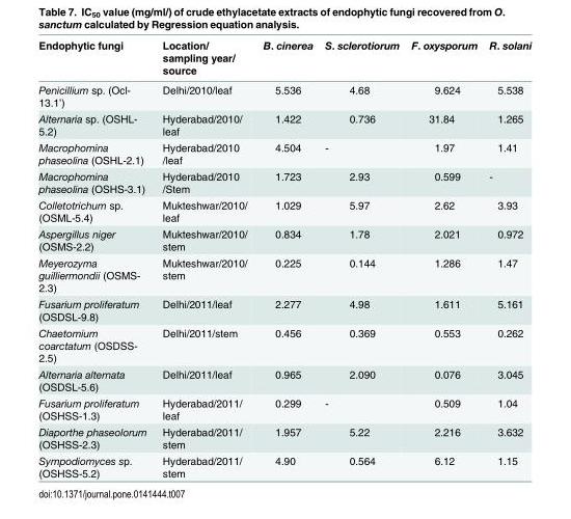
<table><thead><tr><td>Endophytic fungi</td><td>Location/ sampling year/ source</td><td>B. cinerea</td><td>S. sclerotiorum</td><td>F. oxysporum</td><td>R. solani</td></tr></thead><tbody><tr><td>Penicillium sp. (Ocl- 13.1’)</td><td>Delhi/2010/leaf</td><td>5.536</td><td>4.68</td><td>9.624</td><td>5.538</td></tr><tr><td>Alternaria sp. (OSHL- 5.2)</td><td>Hyderabad/2010/ leaf</td><td>1.422</td><td>0.736</td><td>31.84</td><td>1.265</td></tr><tr><td>Macrophomina phaseolina (OSHL-2.1)</td><td>Hyderabad/2010 /leaf</td><td>4.504</td><td>-</td><td>1.97</td><td>1.41</td></tr><tr><td>Macrophomina phaseolina (OSHS-3.1)</td><td>Hyderabad/2010 /Stem</td><td>1.723</td><td>2.93</td><td>0.599</td><td>-</td></tr><tr><td>Colletotrichum sp. (OSML-5.4)</td><td>Mukteshwar/2010/ leaf</td><td>1.029</td><td>5.97</td><td>2.62</td><td>3.93</td></tr><tr><td>Aspergillus niger (OSMS-2.2)</td><td>Mukteshwar/2010/ stem</td><td>0.834</td><td>1.78</td><td>2.021</td><td>0.972</td></tr><tr><td>Meyerozyma guilliermondii (OSMS- 2.3)</td><td>Mukteshwar/2010/ stem</td><td>0.225</td><td>0.144</td><td>1.286</td><td>1.47</td></tr><tr><td>Fusarium proliferatum (OSDSL-9.8)</td><td>Delhi/2011/leaf</td><td>2.277</td><td>4.98</td><td>1.611</td><td>5.161</td></tr><tr><td>Chaetomium coarctatum (OSDSS- 2.5)</td><td>Delhi/2011/stem</td><td>0.456</td><td>0.369</td><td>0.553</td><td>0.262</td></tr><tr><td>Alternaria alternata (OSDSL-5.6)</td><td>Delhi/2011/leaf</td><td>0.965</td><td>2.090</td><td>0.076</td><td>3.045</td></tr><tr><td>Fusarium proliferatum (OSHSS-1.3)</td><td>Hyderabad/2011/ leaf</td><td>0.299</td><td>-</td><td>0.509</td><td>1.04</td></tr><tr><td>Diaporthe phaseolorum (OSHSS-2.3)</td><td>Hyderabad/2011/ stem</td><td>1.957</td><td>5.22</td><td>2.216</td><td>3.632</td></tr><tr><td>Sympodiomyces sp. (OSHSS-5.2)</td><td>Hyderabad/2011/ stem</td><td>4.90</td><td>0.564</td><td>6.12</td><td>1.15</td></tr></tbody></table>